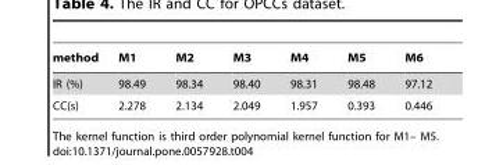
<table><thead><tr><td>method</td><td>M1</td><td>M2</td><td>M3</td><td>M4</td><td>M5</td><td>M6</td></tr></thead><tbody><tr><td>IR (%)</td><td>98.49</td><td>98.34</td><td>98.40</td><td>98.31</td><td>98.48</td><td>97.12</td></tr><tr><td>CC(s)</td><td>2.278</td><td>2.134</td><td>2.049</td><td>1.957</td><td>0.393</td><td>0.446</td></tr></tbody></table>